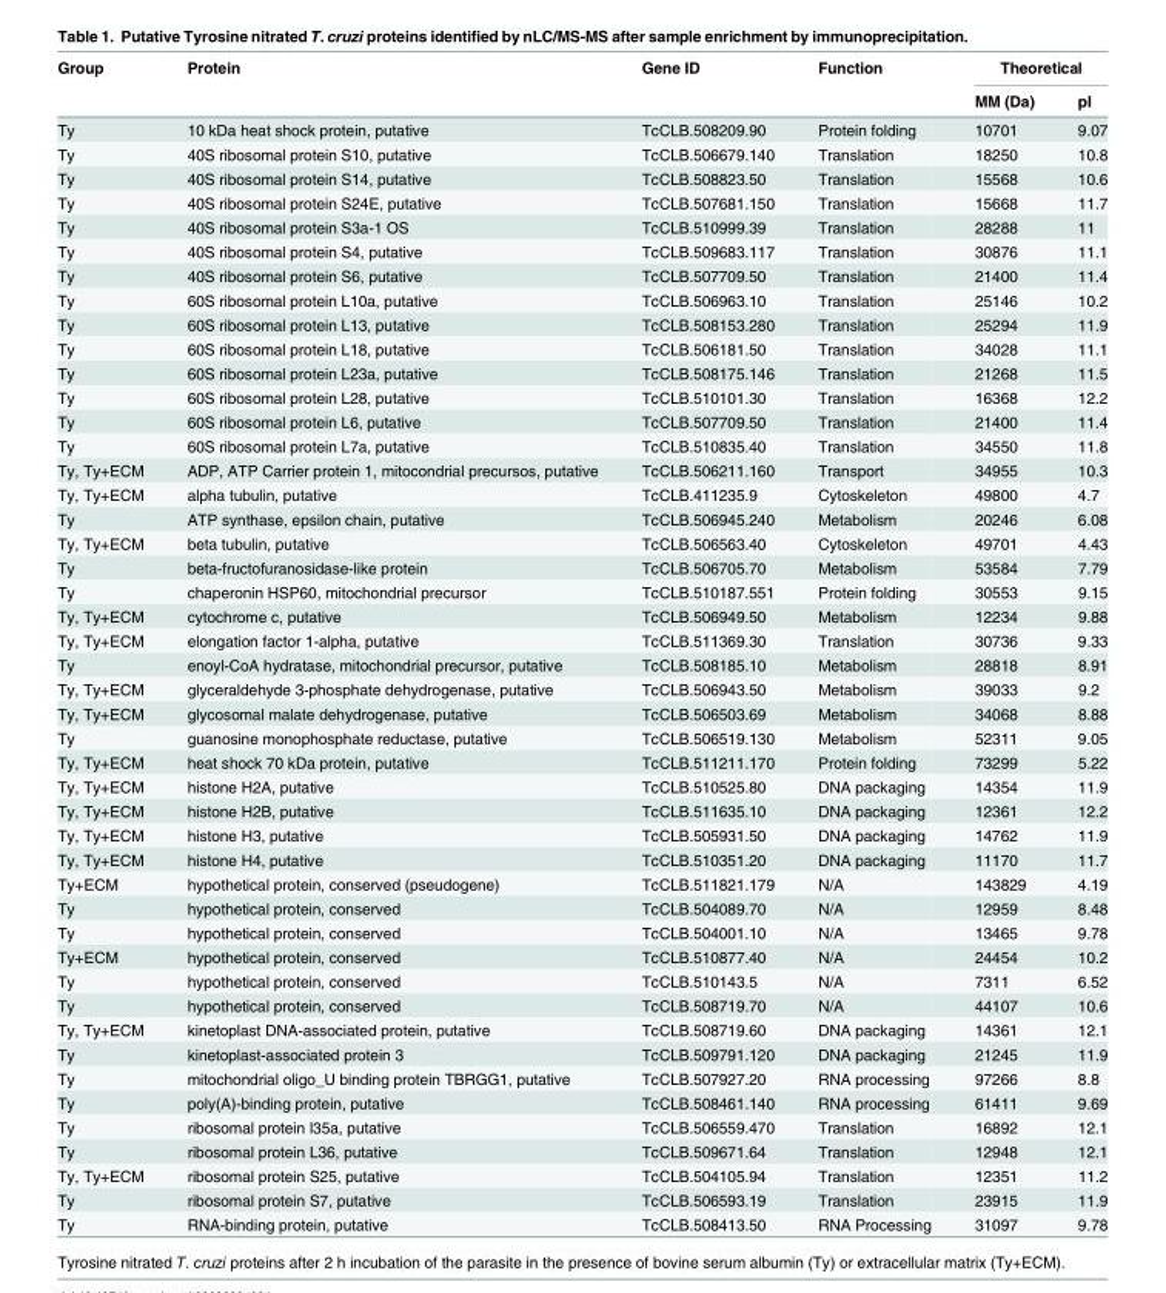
<table><thead><tr><td rowspan="2">Group</td><td rowspan="2">Protein</td><td rowspan="2">Gene ID</td><td rowspan="2">Function</td><td colspan="2">Theoretical</td></tr><tr><td>MM (Da)</td><td>pI</td></tr></thead><tbody><tr><td>Ty</td><td>10 kDa heat shock protein, putative</td><td>TcCLB.508209.90</td><td>Protein folding</td><td>10701</td><td>9.07</td></tr><tr><td>Ty</td><td>40S ribosomal protein S10, putative</td><td>TcCLB.506679.140</td><td>Translation</td><td>18250</td><td>10.8</td></tr><tr><td>Ty</td><td>40S ribosomal protein S14, putative</td><td>TcCLB.508823.50</td><td>Translation</td><td>15568</td><td>10.6</td></tr><tr><td>Ty</td><td>40S ribosomal protein S24E, putative</td><td>TcCLB.507681.150</td><td>Translation</td><td>15668</td><td>11.7</td></tr><tr><td>Ty</td><td>40S ribosomal protein S3a-1 OS</td><td>TcCLB.510999.39</td><td>Translation</td><td>28288</td><td>11</td></tr><tr><td>Ty</td><td>40S ribosomal protein S4, putative</td><td>TcCLB.509683.117</td><td>Translation</td><td>30876</td><td>11.1</td></tr><tr><td>Ty</td><td>40S ribosomal protein S6, putative</td><td>TcCLB.507709.50</td><td>Translation</td><td>21400</td><td>11.4</td></tr><tr><td>Ty</td><td>60S ribosomal protein L10a, putative</td><td>TcCLB.506963.10</td><td>Translation</td><td>25146</td><td>10.2</td></tr><tr><td>Ty</td><td>60S ribosomal protein L13, putative</td><td>TcCLB.508153.280</td><td>Translation</td><td>25294</td><td>11.9</td></tr><tr><td>Ty</td><td>60S ribosomal protein L18, putative</td><td>TcCLB.506181.50</td><td>Translation</td><td>34028</td><td>11.1</td></tr><tr><td>Ty</td><td>60S ribosomal protein L23a, putative</td><td>TcCLB.508175.146</td><td>Translation</td><td>21268</td><td>11.5</td></tr><tr><td>Ty</td><td>60S ribosomal protein L28, putative</td><td>TcCLB.510101.30</td><td>Translation</td><td>16368</td><td>12.2</td></tr><tr><td>Ty</td><td>60S ribosomal protein L6, putative</td><td>TcCLB.507709.50</td><td>Translation</td><td>21400</td><td>11.4</td></tr><tr><td>Ty</td><td>60S ribosomal protein L7a, putative</td><td>TcCLB.510835.40</td><td>Translation</td><td>34550</td><td>11.8</td></tr><tr><td>Ty, Ty+ECM</td><td>ADP, ATP Carrier protein 1, mitocondrial precursos, putative</td><td>TcCLB.506211.160</td><td>Transport</td><td>34955</td><td>10.3</td></tr><tr><td>Ty, Ty+ECM</td><td>alpha tubulin, putative</td><td>TcCLB.411235.9</td><td>Cytoskeleton</td><td>49800</td><td>4.7</td></tr><tr><td>Ty</td><td>ATP synthase, epsilon chain, putative</td><td>TcCLB.506945.240</td><td>Metabolism</td><td>20246</td><td>6.08</td></tr><tr><td>Ty, Ty+ECM</td><td>beta tubulin, putative</td><td>TcCLB.506563.40</td><td>Cytoskeleton</td><td>49701</td><td>4.43</td></tr><tr><td>Ty</td><td>beta-fructofuranosidase-like protein</td><td>TcCLB.506705.70</td><td>Metabolism</td><td>53584</td><td>7.79</td></tr><tr><td>Ty</td><td>chaperonin HSP60, mitochondrial precursor</td><td>TcCLB.510187.551</td><td>Protein folding</td><td>30553</td><td>9.15</td></tr><tr><td>Ty, Ty+ECM</td><td>cytochrome c, putative</td><td>TcCLB.506949.50</td><td>Metabolism</td><td>12234</td><td>9.88</td></tr><tr><td>Ty, Ty+ECM</td><td>elongation factor 1-alpha, putative</td><td>TcCLB.511369.30</td><td>Translation</td><td>30736</td><td>9.33</td></tr><tr><td>Ty</td><td>enoyl-CoA hydratase, mitochondrial precursor, putative</td><td>TcCLB.508185.10</td><td>Metabolism</td><td>28818</td><td>8.91</td></tr><tr><td>Ty, Ty+ECM</td><td>glyceraldehyde 3-phosphate dehydrogenase, putative</td><td>TcCLB.506943.50</td><td>Metabolism</td><td>39033</td><td>9.2</td></tr><tr><td>Ty, Ty+ECM</td><td>glycosomal malate dehydrogenase, putative</td><td>TcCLB.506503.69</td><td>Metabolism</td><td>34068</td><td>8.88</td></tr><tr><td>Ty</td><td>guanosine monophosphate reductase, putative</td><td>TcCLB.506519.130</td><td>Metabolism</td><td>52311</td><td>9.05</td></tr><tr><td>Ty, Ty+ECM</td><td>heat shock 70 kDa protein, putative</td><td>TcCLB.511211.170</td><td>Protein folding</td><td>73299</td><td>5.22</td></tr><tr><td>Ty, Ty+ECM</td><td>histone H2A, putative</td><td>TcCLB.510525.80</td><td>DNA packaging</td><td>14354</td><td>11.9</td></tr><tr><td>Ty, Ty+ECM</td><td>histone H2B, putative</td><td>TcCLB.511635.10</td><td>DNA packaging</td><td>12361</td><td>12.2</td></tr><tr><td>Ty, Ty+ECM</td><td>histone H3, putative</td><td>TcCLB.505931.50</td><td>DNA packaging</td><td>14762</td><td>11.9</td></tr><tr><td>Ty, Ty+ECM</td><td>histone H4, putative</td><td>TcCLB.510351.20</td><td>DNA packaging</td><td>11170</td><td>11.7</td></tr><tr><td>Ty+ECM</td><td>hypothetical protein, conserved (pseudogene)</td><td>TcCLB.511821.179</td><td>N/A</td><td>143829</td><td>4.19</td></tr><tr><td>Ty</td><td>hypothetical protein, conserved</td><td>TcCLB.504089.70</td><td>N/A</td><td>12959</td><td>8.48</td></tr><tr><td>Ty</td><td>hypothetical protein, conserved</td><td>TcCLB.504001.10</td><td>N/A</td><td>13465</td><td>9.78</td></tr><tr><td>Ty+ECM</td><td>hypothetical protein, conserved</td><td>TcCLB.510877.40</td><td>N/A</td><td>24454</td><td>10.2</td></tr><tr><td>Ty</td><td>hypothetical protein, conserved</td><td>TcCLB.510143.5</td><td>N/A</td><td>7311</td><td>6.52</td></tr><tr><td>Ty</td><td>hypothetical protein, conserved</td><td>TcCLB.508719.70</td><td>N/A</td><td>44107</td><td>10.6</td></tr><tr><td>Ty, Ty+ECM</td><td>kinetoplast DNA-associated protein, putative</td><td>TcCLB.508719.60</td><td>DNA packaging</td><td>14361</td><td>12.1</td></tr><tr><td>Ty</td><td>kinetoplast-associated protein 3</td><td>TcCLB.509791.120</td><td>DNA packaging</td><td>21245</td><td>11.9</td></tr><tr><td>Ty</td><td>mitochondrial oligo_U binding protein TBRGG1, putative</td><td>TcCLB.507927.20</td><td>RNA processing</td><td>97266</td><td>8.8</td></tr><tr><td>Ty</td><td>poly(A)-binding protein, putative</td><td>TcCLB.508461.140</td><td>RNA processing</td><td>61411</td><td>9.69</td></tr><tr><td>Ty</td><td>ribosomal protein l35a, putative</td><td>TcCLB.506559.470</td><td>Translation</td><td>16892</td><td>12.1</td></tr><tr><td>Ty</td><td>ribosomal protein L36, putative</td><td>TcCLB.509671.64</td><td>Translation</td><td>12948</td><td>12.1</td></tr><tr><td>Ty, Ty+ECM</td><td>ribosomal protein S25, putative</td><td>TcCLB.504105.94</td><td>Translation</td><td>12351</td><td>11.2</td></tr><tr><td>Ty</td><td>ribosomal protein S7, putative</td><td>TcCLB.506593.19</td><td>Translation</td><td>23915</td><td>11.9</td></tr><tr><td>Ty</td><td>RNA-binding protein, putative</td><td>TcCLB.508413.50</td><td>RNA Processing</td><td>31097</td><td>9.78</td></tr></tbody></table>